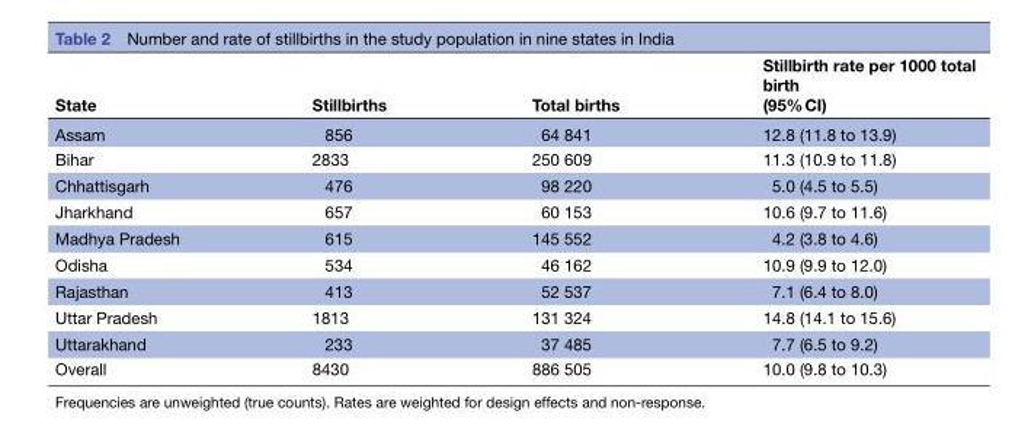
<table><thead><tr><td>State</td><td>Stillbirths</td><td>Total births</td><td>Stillbirth rate per 1000 total birth (95% CI)</td></tr></thead><tbody><tr><td>Assam</td><td>856</td><td>64 841</td><td>12.8 (11.8 to 13.9)</td></tr><tr><td>Bihar</td><td>2833</td><td>250 609</td><td>11.3 (10.9 to 11.8)</td></tr><tr><td>Chhattisgarh</td><td>476</td><td>98 220</td><td>5.0 (4.5 to 5.5)</td></tr><tr><td>Jharkhand</td><td>657</td><td>60 153</td><td>10.6 (9.7 to 11.6)</td></tr><tr><td>Madhya Pradesh</td><td>615</td><td>145 552</td><td>4.2 (3.8 to 4.6)</td></tr><tr><td>Odisha</td><td>534</td><td>46 162</td><td>10.9 (9.9 to 12.0)</td></tr><tr><td>Rajasthan</td><td>413</td><td>52 537</td><td>7.1 (6.4 to 8.0)</td></tr><tr><td>Uttar Pradesh</td><td>1813</td><td>131 324</td><td>14.8 (14.1 to 15.6)</td></tr><tr><td>Uttarakhand</td><td>233</td><td>37 485</td><td>7.7 (6.5 to 9.2)</td></tr><tr><td>Overall</td><td>8430</td><td>886 505</td><td>10.0 (9.8 to 10.3)</td></tr></tbody></table>